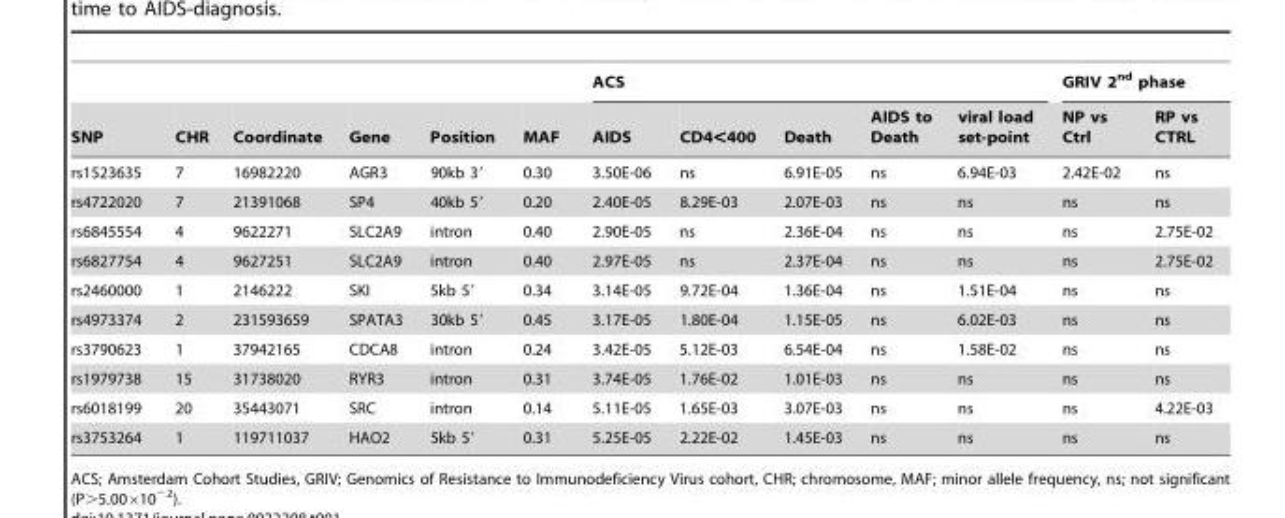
<table><thead><tr><td rowspan="2">SNP</td><td rowspan="2">CHR</td><td rowspan="2">Coordinate</td><td rowspan="2">Gene</td><td rowspan="2">Position</td><td rowspan="2">MAF</td><td colspan="5">ACS</td><td colspan="2">GRIV 2<sup>nd</sup> phase</td></tr><tr><td>AIDS</td><td>CD4&lt;400</td><td>Death</td><td>AIDS to Death</td><td>viral load set-point</td><td>NP vs Ctrl</td><td>RP vs CTRL</td></tr></thead><tbody><tr><td>rs1523635</td><td>7</td><td>16982220</td><td>AGR3</td><td>90kb 3′</td><td>0.30</td><td>3.50E-06</td><td>ns</td><td>6.91E-05</td><td>ns</td><td>6.94E-03</td><td>2.42E-02</td><td>ns</td></tr><tr><td>rs4722020</td><td>7</td><td>21391068</td><td>SP4</td><td>40kb 5′</td><td>0.20</td><td>2.40E-05</td><td>8.29E-03</td><td>2.07E-03</td><td>ns</td><td>ns</td><td>ns</td><td>ns</td></tr><tr><td>rs6845554</td><td>4</td><td>9622271</td><td>SLC2A9</td><td>intron</td><td>0.40</td><td>2.90E-05</td><td>ns</td><td>2.36E-04</td><td>ns</td><td>ns</td><td>ns</td><td>2.75E-02</td></tr><tr><td>rs6827754</td><td>4</td><td>9627251</td><td>SLC2A9</td><td>intron</td><td>0.40</td><td>2.97E-05</td><td>ns</td><td>2.37E-04</td><td>ns</td><td>ns</td><td>ns</td><td>2.75E-02</td></tr><tr><td>rs2460000</td><td>1</td><td>2146222</td><td>SKI</td><td>5kb 5′</td><td>0.34</td><td>3.14E-05</td><td>9.72E-04</td><td>1.36E-04</td><td>ns</td><td>1.51E-04</td><td>ns</td><td>ns</td></tr><tr><td>rs4973374</td><td>2</td><td>231593659</td><td>SPATA3</td><td>30kb 5′</td><td>0.45</td><td>3.17E-05</td><td>1.80E-04</td><td>1.15E-05</td><td>ns</td><td>6.02E-03</td><td>ns</td><td>ns</td></tr><tr><td>rs3790623</td><td>1</td><td>37942165</td><td>CDCA8</td><td>intron</td><td>0.24</td><td>3.42E-05</td><td>5.12E-03</td><td>6.54E-04</td><td>ns</td><td>1.58E-02</td><td>ns</td><td>ns</td></tr><tr><td>rs1979738</td><td>15</td><td>31738020</td><td>RYR3</td><td>intron</td><td>0.31</td><td>3.74E-05</td><td>1.76E-02</td><td>1.01E-03</td><td>ns</td><td>ns</td><td>ns</td><td>ns</td></tr><tr><td>rs6018199</td><td>20</td><td>35443071</td><td>SRC</td><td>intron</td><td>0.14</td><td>5.11E-05</td><td>1.65E-03</td><td>3.07E-03</td><td>ns</td><td>ns</td><td>ns</td><td>4.22E-03</td></tr><tr><td>rs3753264</td><td>1</td><td>119711037</td><td>HAO2</td><td>5kb 5′</td><td>0.31</td><td>5.25E-05</td><td>2.22E-02</td><td>1.45E-03</td><td>ns</td><td>ns</td><td>ns</td><td>ns</td></tr></tbody></table>